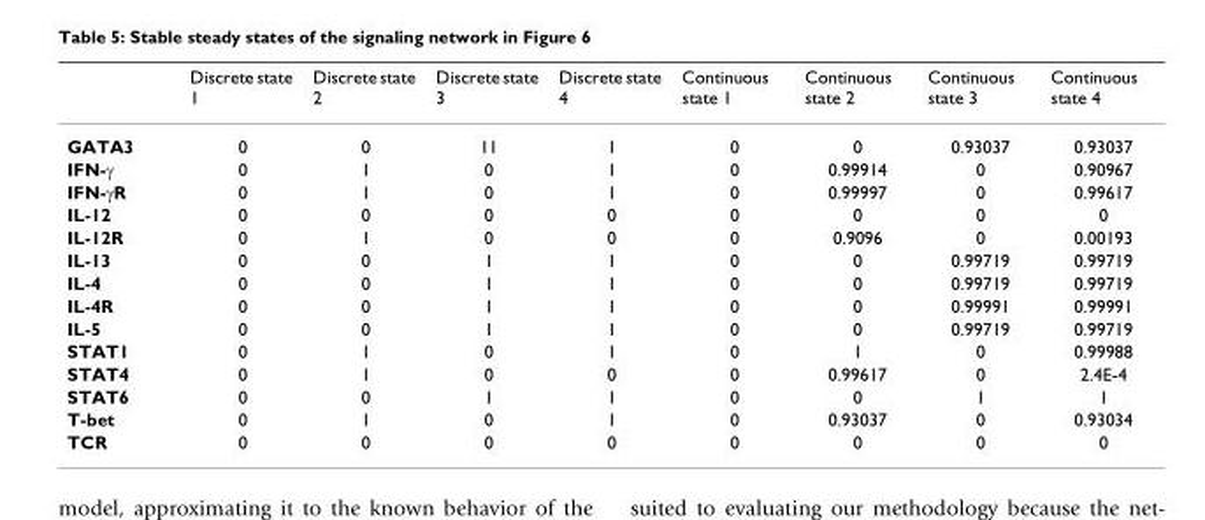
<table><thead><tr><td></td><td>Discrete state 1</td><td>Discrete state 2</td><td>Discrete state 3</td><td>Discrete state 4</td><td>Continuous state 1</td><td>Continuous state 2</td><td>Continuous state 3</td><td>Continuous state 4</td></tr></thead><tbody><tr><td>GATA3</td><td>0</td><td>0</td><td>11</td><td>1</td><td>0</td><td>0</td><td>0.93037</td><td>0.93037</td></tr><tr><td>IFN-γ</td><td>0</td><td>1</td><td>0</td><td>1</td><td>0</td><td>0.99914</td><td>0</td><td>0.90967</td></tr><tr><td>IFN-γR</td><td>0</td><td>1</td><td>0</td><td>1</td><td>0</td><td>0.99997</td><td>0</td><td>0.99617</td></tr><tr><td>IL-12</td><td>0</td><td>0</td><td>0</td><td>0</td><td>0</td><td>0</td><td>0</td><td>0</td></tr><tr><td>IL-12R</td><td>0</td><td>1</td><td>0</td><td>0</td><td>0</td><td>0.9096</td><td>0</td><td>0.00193</td></tr><tr><td>IL-13</td><td>0</td><td>0</td><td>1</td><td>1</td><td>0</td><td>0</td><td>0.99719</td><td>0.99719</td></tr><tr><td>IL-4</td><td>0</td><td>0</td><td>1</td><td>1</td><td>0</td><td>0</td><td>0.99719</td><td>0.99719</td></tr><tr><td>IL-4R</td><td>0</td><td>0</td><td>1</td><td>1</td><td>0</td><td>0</td><td>0.99991</td><td>0.99991</td></tr><tr><td>IL-5</td><td>0</td><td>0</td><td>1</td><td>1</td><td>0</td><td>0</td><td>0.99719</td><td>0.99719</td></tr><tr><td>STAT1</td><td>0</td><td>1</td><td>0</td><td>1</td><td>0</td><td>1</td><td>0</td><td>0.99988</td></tr><tr><td>STAT4</td><td>0</td><td>1</td><td>0</td><td>0</td><td>0</td><td>0.99617</td><td>0</td><td>2.4E-4</td></tr><tr><td>STAT6</td><td>0</td><td>0</td><td>1</td><td>1</td><td>0</td><td>0</td><td>1</td><td>1</td></tr><tr><td>T-bet</td><td>0</td><td>1</td><td>0</td><td>1</td><td>0</td><td>0.93037</td><td>0</td><td>0.93034</td></tr><tr><td>TCR</td><td>0</td><td>0</td><td>0</td><td>0</td><td>0</td><td>0</td><td>0</td><td>0</td></tr></tbody></table>